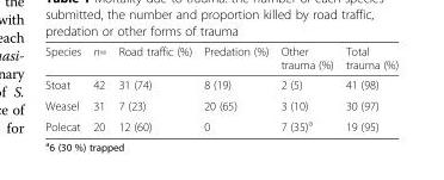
<table><thead><tr><td>Species</td><td>n=</td><td>Road traffic (%)</td><td>Predation (%)</td><td>Other trauma (%)</td><td>Total trauma (%)</td></tr></thead><tbody><tr><td>Stoat</td><td>42</td><td>31 (74)</td><td>8 (19)</td><td>2 (5)</td><td>41 (98)</td></tr><tr><td>Weasel</td><td>31</td><td>7 (23)</td><td>20 (65)</td><td>3 (10)</td><td>30 (97)</td></tr><tr><td>Polecat</td><td>20</td><td>12 (60)</td><td>0</td><td>7 (35)<sup>a</sup></td><td>19 (95)</td></tr></tbody></table>